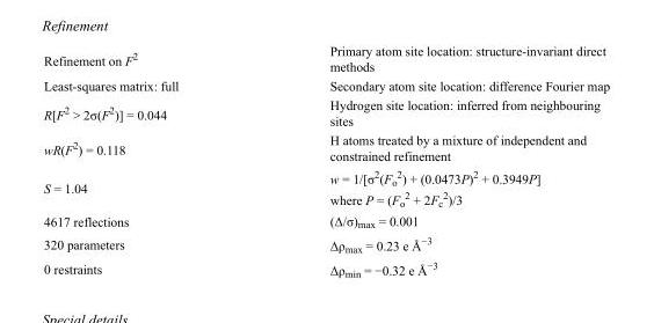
<table><tbody><tr><td>Refinement on F<sup>2</sup></td><td>Primary atom site location: structure-invariant direct methods</td></tr><tr><td>Least-squares matrix: full</td><td>Secondary atom site location: difference Fourier map</td></tr><tr><td>R[F<sup>2</sup> &gt; 2σ(F<sup>2</sup>)] = 0.044</td><td>Hydrogen site location: inferred from neighbouring sites</td></tr><tr><td>wR(F<sup>2</sup>) = 0.118</td><td>H atoms treated by a mixture of independent and constrained refinement</td></tr><tr><td>S = 1.04</td><td>w = 1/[σ<sup>2</sup>(F<sub>o</sub> <sup>2</sup>) + (0.0473P)<sup>2</sup> + 0.3949P] where P = (F<sub>o</sub> <sup>2</sup> + 2F<sub>c</sub> <sup>2</sup>)/3</td></tr><tr><td>4617 reflections</td><td>(Δ/σ)<sub>max</sub> = 0.001</td></tr><tr><td>320 parameters</td><td>Δρ<sub>max</sub> = 0.23 e Å<sup>−3</sup></td></tr><tr><td>0 restraints</td><td>Δρ<sub>min</sub> = −0.32 e Å<sup>−3</sup></td></tr></tbody></table>